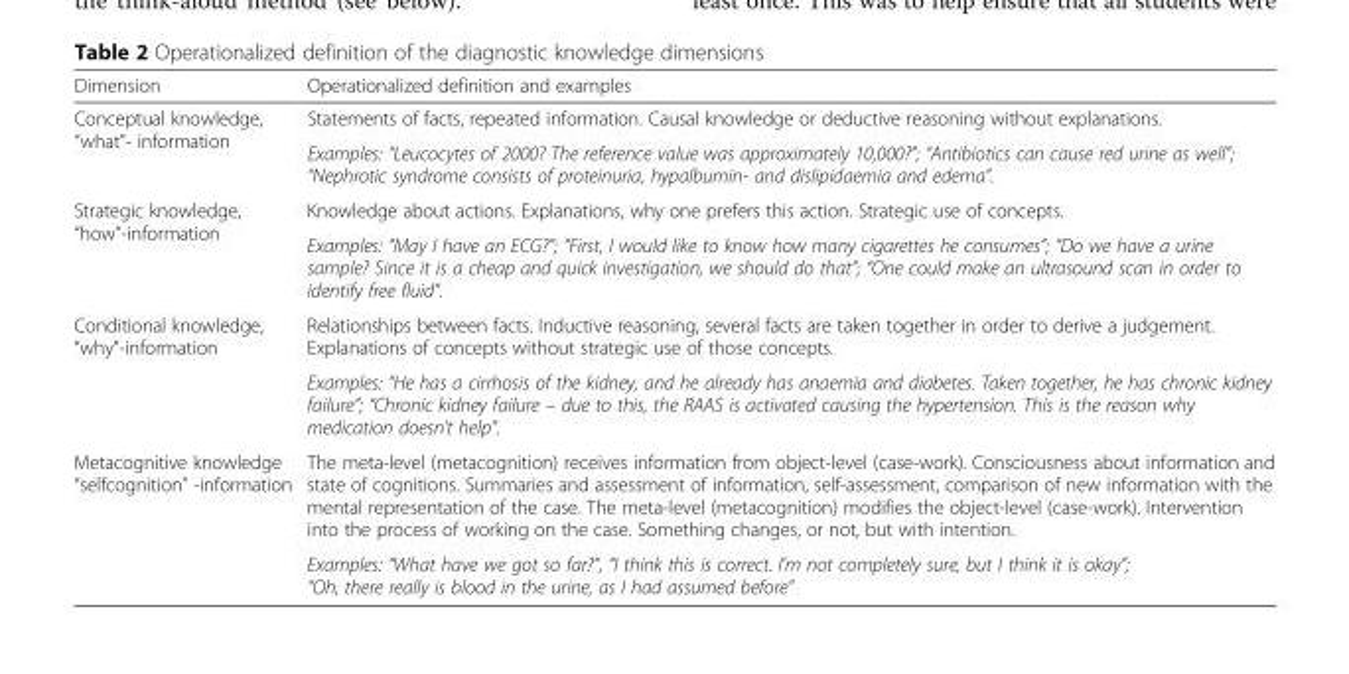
<table><thead><tr><td>Dimension</td><td>Operationalized definition and examples</td></tr></thead><tbody><tr><td rowspan="2">Conceptual knowledge, “what”- information</td><td>Statements of facts, repeated information. Causal knowledge or deductive reasoning without explanations.</td></tr><tr><td>Examples: “Leucocytes of 2000? The reference value was approximately 10,000?”; “Antibiotics can cause red urine as well”; “Nephrotic syndrome consists of proteinuria, hypalbumin- and dislipidaemia and edema”.</td></tr><tr><td rowspan="2">Strategic knowledge, “how”-information</td><td>Knowledge about actions. Explanations, why one prefers this action. Strategic use of concepts.</td></tr><tr><td>Examples: “May I have an ECG?”; “First, I would like to know how many cigarettes he consumes”; “Do we have a urine sample? Since it is a cheap and quick investigation, we should do that”; “One could make an ultrasound scan in order to identify free fluid”.</td></tr><tr><td rowspan="2">Conditional knowledge, “why”-information</td><td>Relationships between facts. Inductive reasoning, several facts are taken together in order to derive a judgement. Explanations of concepts without strategic use of those concepts.</td></tr><tr><td>Examples: “He has a cirrhosis of the kidney, and he already has anaemia and diabetes. Taken together, he has chronic kidney failure”; “Chronic kidney failure – due to this, the RAAS is activated causing the hypertension. This is the reason why medication doesn&#x27;t help”.</td></tr><tr><td rowspan="2">Metacognitive knowledge “selfcognition” -information</td><td>The meta-level (metacognition) receives information from object-level (case-work). Consciousness about information and state of cognitions. Summaries and assessment of information, self-assessment, comparison of new information with the mental representation of the case. The meta-level (metacognition) modifies the object-level (case-work). Intervention into the process of working on the case. Something changes, or not, but with intention.</td></tr><tr><td>Examples: “What have we got so far?”, “I think this is correct. I&#x27;m not completely sure, but I think it is okay”; “Oh, there really is blood in the urine, as I had assumed before”</td></tr></tbody></table>